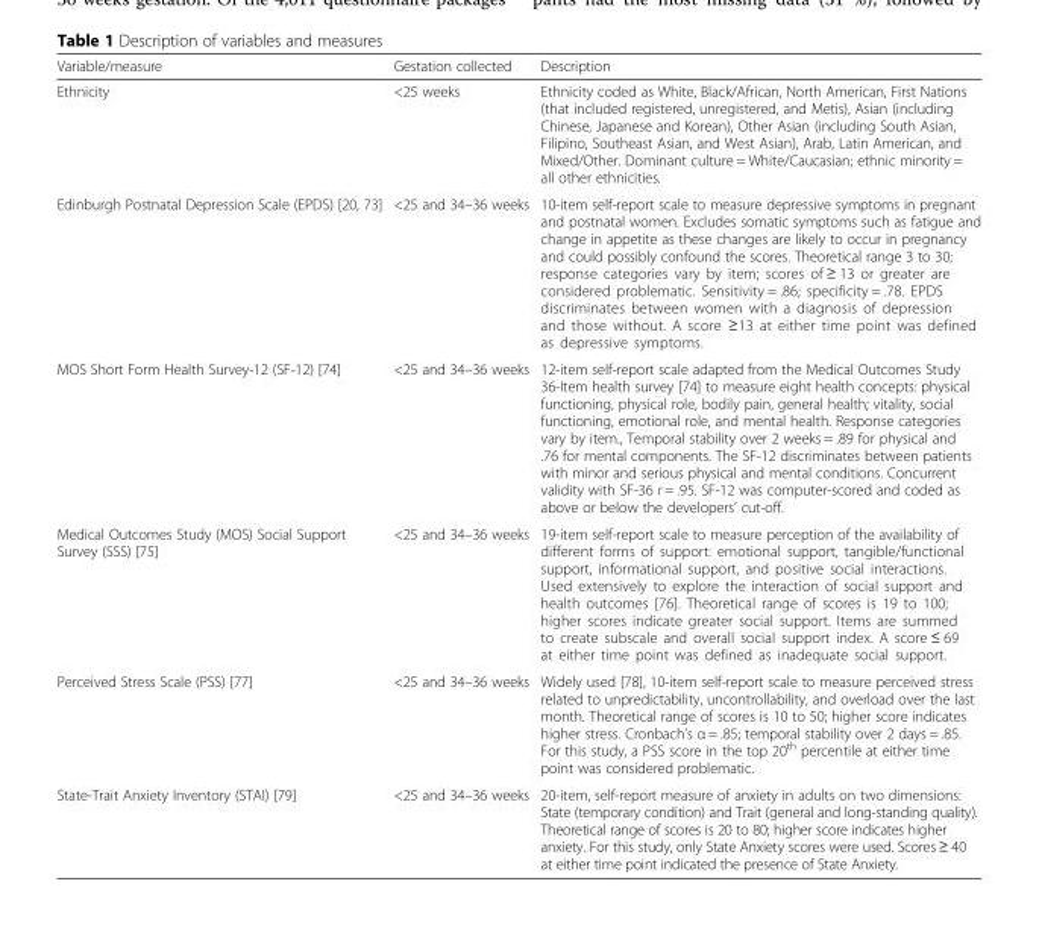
<table><thead><tr><td>Variable/measure</td><td>Gestation collected</td><td>Description</td></tr></thead><tbody><tr><td>Ethnicity</td><td>&lt;25 weeks</td><td>Ethnicity coded as White, Black/African, North American, First Nations (that included registered, unregistered, and Metis), Asian (including Chinese, Japanese and Korean), Other Asian (including South Asian, Filipino, Southeast Asian, and West Asian), Arab, Latin American, and Mixed/Other. Dominant culture = White/Caucasian; ethnic minority = all other ethnicities.</td></tr><tr><td>Edinburgh Postnatal Depression Scale (EPDS) [20, 73]</td><td>&lt;25 and 34–36 weeks</td><td>10-item self-report scale to measure depressive symptoms in pregnant and postnatal women. Excludes somatic symptoms such as fatigue and change in appetite as these changes are likely to occur in pregnancy and could possibly confound the scores. Theoretical range 3 to 30; response categories vary by item; scores of ≥ 13 or greater are considered problematic. Sensitivity = .86; specificity = .78. EPDS discriminates between women with a diagnosis of depression and those without. A score ≥13 at either time point was defined as depressive symptoms.</td></tr><tr><td>MOS Short Form Health Survey-12 (SF-12) [74]</td><td>&lt;25 and 34–36 weeks</td><td>12-item self-report scale adapted from the Medical Outcomes Study 36-Item health survey [74] to measure eight health concepts: physical functioning, physical role, bodily pain, general health; vitality, social functioning, emotional role, and mental health. Response categories vary by item., Temporal stability over 2 weeks = .89 for physical and .76 for mental components. The SF-12 discriminates between patients with minor and serious physical and mental conditions. Concurrent validity with SF-36 r = .95. SF-12 was computer-scored and coded as above or below the developers’ cut-off.</td></tr><tr><td>Medical Outcomes Study (MOS) Social Support Survey (SSS) [75]</td><td>&lt;25 and 34–36 weeks</td><td>19-item self-report scale to measure perception of the availability of different forms of support: emotional support, tangible/functional support, informational support, and positive social interactions. Used extensively to explore the interaction of social support and health outcomes [76]. Theoretical range of scores is 19 to 100; higher scores indicate greater social support. Items are summed to create subscale and overall social support index. A score ≤ 69 at either time point was defined as inadequate social support.</td></tr><tr><td>Perceived Stress Scale (PSS) [77]</td><td>&lt;25 and 34–36 weeks</td><td>Widely used [78], 10-item self-report scale to measure perceived stress related to unpredictability, uncontrollability, and overload over the last month. Theoretical range of scores is 10 to 50; higher score indicates higher stress. Cronbach’s α = .85; temporal stability over 2 days = .85. For this study, a PSS score in the top 20<sup>th</sup> percentile at either time point was considered problematic.</td></tr><tr><td>State-Trait Anxiety Inventory (STAI) [79]</td><td>&lt;25 and 34–36 weeks</td><td>20-item, self-report measure of anxiety in adults on two dimensions: State (temporary condition) and Trait (general and long-standing quality). Theoretical range of scores is 20 to 80; higher score indicates higher anxiety. For this study, only State Anxiety scores were used. Scores ≥ 40 at either time point indicated the presence of State Anxiety.</td></tr></tbody></table>